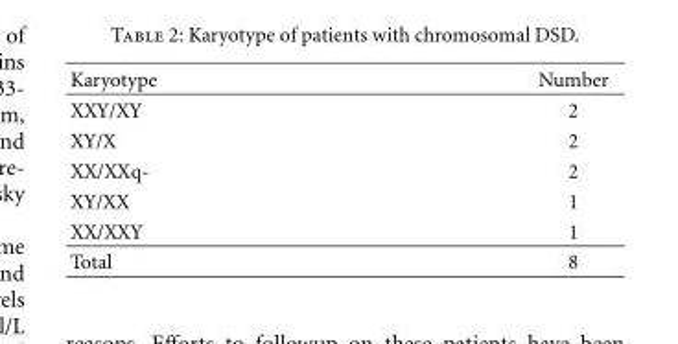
<table><thead><tr><td>Karyotype</td><td>Number</td></tr></thead><tbody><tr><td>XXY/XY</td><td>2</td></tr><tr><td>XY/X</td><td>2</td></tr><tr><td>XX/XXq-</td><td>2</td></tr><tr><td>XY/XX</td><td>1</td></tr><tr><td>XX/XXY</td><td>1</td></tr><tr><td>Total</td><td>8</td></tr></tbody></table>